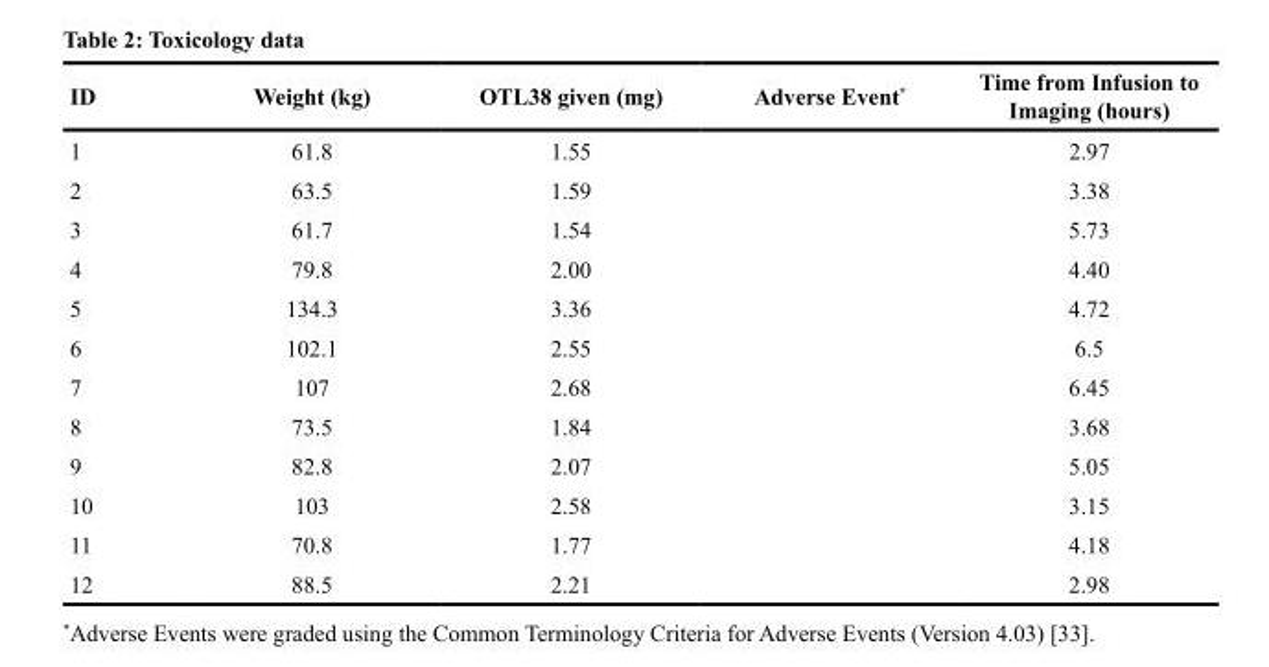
<table><thead><tr><td>ID</td><td>Weight (kg)</td><td>OTL38 given (mg)</td><td>Adverse Event*</td><td>Time from Infusion to Imaging (hours)</td></tr></thead><tbody><tr><td>1</td><td>61.8</td><td>1.55</td><td></td><td>2.97</td></tr><tr><td>2</td><td>63.5</td><td>1.59</td><td></td><td>3.38</td></tr><tr><td>3</td><td>61.7</td><td>1.54</td><td></td><td>5.73</td></tr><tr><td>4</td><td>79.8</td><td>2.00</td><td></td><td>4.40</td></tr><tr><td>5</td><td>134.3</td><td>3.36</td><td></td><td>4.72</td></tr><tr><td>6</td><td>102.1</td><td>2.55</td><td></td><td>6.5</td></tr><tr><td>7</td><td>107</td><td>2.68</td><td></td><td>6.45</td></tr><tr><td>8</td><td>73.5</td><td>1.84</td><td></td><td>3.68</td></tr><tr><td>9</td><td>82.8</td><td>2.07</td><td></td><td>5.05</td></tr><tr><td>10</td><td>103</td><td>2.58</td><td></td><td>3.15</td></tr><tr><td>11</td><td>70.8</td><td>1.77</td><td></td><td>4.18</td></tr><tr><td>12</td><td>88.5</td><td>2.21</td><td></td><td>2.98</td></tr></tbody></table>